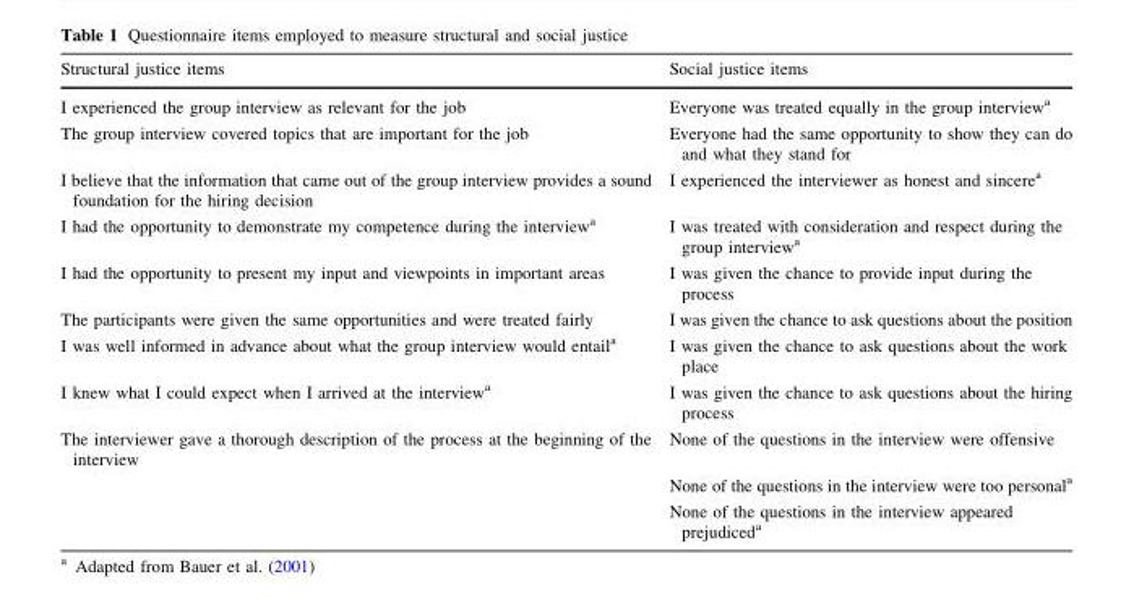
<table><thead><tr><td>Structural justice items</td><td>Social justice items</td></tr></thead><tbody><tr><td>I experienced the group interview as relevant for the job</td><td>Everyone was treated equally in the group interview<sup>a</sup></td></tr><tr><td>The group interview covered topics that are important for the job</td><td>Everyone had the same opportunity to show they can do and what they stand for</td></tr><tr><td>I believe that the information that came out of the group interview provides a sound foundation for the hiring decision</td><td>I experienced the interviewer as honest and sincere<sup>a</sup></td></tr><tr><td>I had the opportunity to demonstrate my competence during the interview<sup>a</sup></td><td>I was treated with consideration and respect during the group interview<sup>a</sup></td></tr><tr><td>I had the opportunity to present my input and viewpoints in important areas</td><td>I was given the chance to provide input during the process</td></tr><tr><td>The participants were given the same opportunities and were treated fairly</td><td>I was given the chance to ask questions about the position</td></tr><tr><td>I was well informed in advance about what the group interview would entail<sup>a</sup></td><td>I was given the chance to ask questions about the work place</td></tr><tr><td>I knew what I could expect when I arrived at the interview<sup>a</sup></td><td>I was given the chance to ask questions about the hiring process</td></tr><tr><td rowspan="3">The interviewer gave a thorough description of the process at the beginning of the interview</td><td>None of the questions in the interview were offensive</td></tr><tr><td>None of the questions in the interview were too personal<sup>a</sup></td></tr><tr><td>None of the questions in the interview appeared prejudiced<sup>a</sup></td></tr></tbody></table>